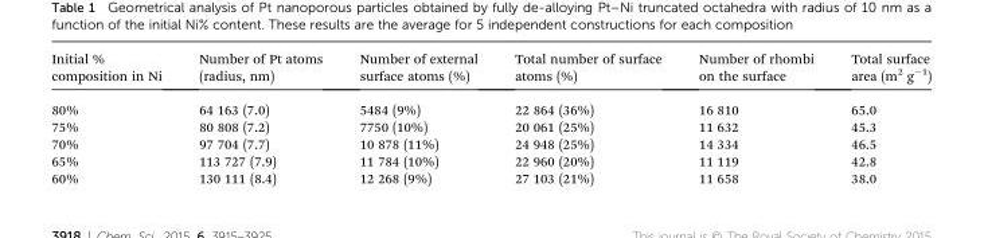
<table><thead><tr><td>Initial % composition in Ni</td><td>Number of Pt atoms (radius, nm)</td><td>Number of external surface atoms (%)</td><td>Total number of surface atoms (%)</td><td>Number of rhombi on the surface</td><td>Total surface area (m<sup>2</sup> g<sup>–1</sup>)</td></tr></thead><tbody><tr><td>80%</td><td>64 163 (7.0)</td><td>5484 (9%)</td><td>22 864 (36%)</td><td>16 810</td><td>65.0</td></tr><tr><td>75%</td><td>80 808 (7.2)</td><td>7750 (10%)</td><td>20 061 (25%)</td><td>11 632</td><td>45.3</td></tr><tr><td>70%</td><td>97 704 (7.7)</td><td>10 878 (11%)</td><td>24 948 (25%)</td><td>14 334</td><td>46.5</td></tr><tr><td>65%</td><td>113 727 (7.9)</td><td>11 784 (10%)</td><td>22 960 (20%)</td><td>11 119</td><td>42.8</td></tr><tr><td>60%</td><td>130 111 (8.4)</td><td>12 268 (9%)</td><td>27 103 (21%)</td><td>11 658</td><td>38.0</td></tr></tbody></table>